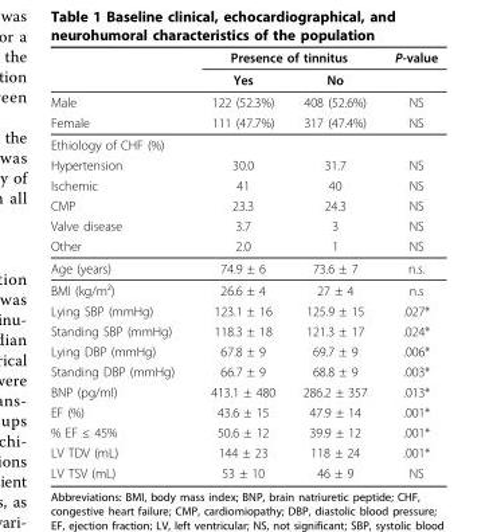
<table><thead><tr><td rowspan="2"></td><td colspan="2">Presence of tinnitus</td><td rowspan="2">P-value</td></tr><tr><td>Yes</td><td>No</td></tr></thead><tbody><tr><td>Male</td><td>122 (52.3%)</td><td>408 (52.6%)</td><td>NS</td></tr><tr><td>Female</td><td>111 (47.7%)</td><td>317 (47.4%)</td><td>NS</td></tr><tr><td colspan="4">Ethiology of CHF (%)</td></tr><tr><td>Hypertension</td><td>30.0</td><td>31.7</td><td>NS</td></tr><tr><td>Ischemic</td><td>41</td><td>40</td><td>NS</td></tr><tr><td>CMP</td><td>23.3</td><td>24.3</td><td>NS</td></tr><tr><td>Valve disease</td><td>3.7</td><td>3</td><td>NS</td></tr><tr><td>Other</td><td>2.0</td><td>1</td><td>NS</td></tr><tr><td>Age (years)</td><td>74.9 ± 6</td><td>73.6 ± 7</td><td>n.s.</td></tr><tr><td>BMI (kg/m²)</td><td>26.6 ± 4</td><td>27 ± 4</td><td>n.s</td></tr><tr><td>Lying SBP (mmHg)</td><td>123.1 ± 16</td><td>125.9 ± 15</td><td>.027*</td></tr><tr><td>Standing SBP (mmHg)</td><td>118.3 ± 18</td><td>121.3 ± 17</td><td>.024*</td></tr><tr><td>Lying DBP (mmHg)</td><td>67.8 ± 9</td><td>69.7 ± 9</td><td>.006*</td></tr><tr><td>Standing DBP (mmHg)</td><td>66.7 ± 9</td><td>68.8 ± 9</td><td>.003*</td></tr><tr><td>BNP (pg/ml)</td><td>413.1 ± 480</td><td>286.2 ± 357</td><td>.013*</td></tr><tr><td>EF (%)</td><td>43.6 ± 15</td><td>47.9 ± 14</td><td>.001*</td></tr><tr><td>% EF ≤ 45%</td><td>50.6 ± 12</td><td>39.9 ± 12</td><td>.001*</td></tr><tr><td>LV TDV (mL)</td><td>144 ± 23</td><td>118 ± 24</td><td>.001*</td></tr><tr><td>LV TSV (mL)</td><td>53 ± 10</td><td>46 ± 9</td><td>NS</td></tr></tbody></table>